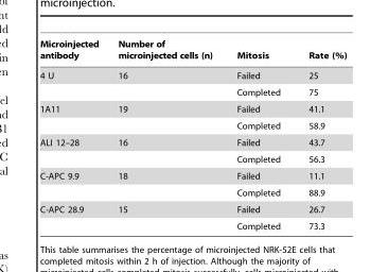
<table><thead><tr><td>Microinjected antibody</td><td>Number of microinjected cells (n)</td><td>Mitosis</td><td>Rate (%)</td></tr></thead><tbody><tr><td rowspan="2">4 U</td><td>16</td><td>Failed</td><td>25</td></tr><tr><td></td><td>Completed</td><td>75</td></tr><tr><td rowspan="2">1A11</td><td>19</td><td>Failed</td><td>41.1</td></tr><tr><td></td><td>Completed</td><td>58.9</td></tr><tr><td rowspan="2">ALI 12–28</td><td>16</td><td>Failed</td><td>43.7</td></tr><tr><td></td><td>Completed</td><td>56.3</td></tr><tr><td rowspan="2">C-APC 9.9</td><td>18</td><td>Failed</td><td>11.1</td></tr><tr><td></td><td>Completed</td><td>88.9</td></tr><tr><td rowspan="2">C-APC 28.9</td><td>15</td><td>Failed</td><td>26.7</td></tr><tr><td></td><td>Completed</td><td>73.3</td></tr></tbody></table>